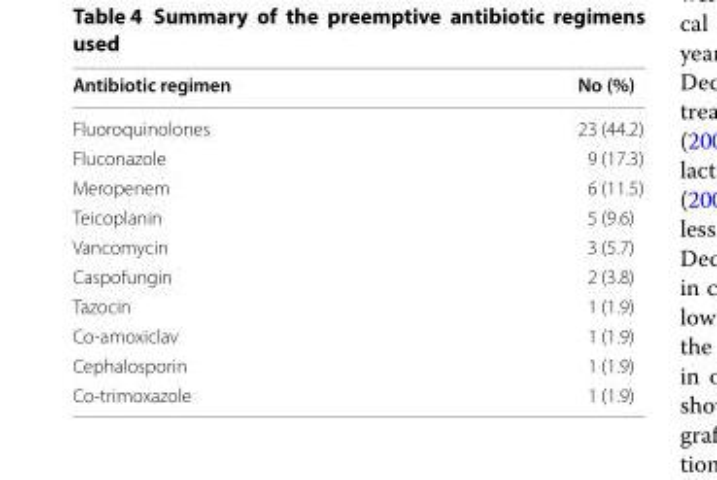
<table><thead><tr><td>Antibiotic regimen</td><td>No (%)</td></tr></thead><tbody><tr><td>Fluoroquinolones</td><td>23 (44.2)</td></tr><tr><td>Fluconazole</td><td>9 (17.3)</td></tr><tr><td>Meropenem</td><td>6 (11.5)</td></tr><tr><td>Teicoplanin</td><td>5 (9.6)</td></tr><tr><td>Vancomycin</td><td>3 (5.7)</td></tr><tr><td>Caspofungin</td><td>2 (3.8)</td></tr><tr><td>Tazocin</td><td>1 (1.9)</td></tr><tr><td>Co-amoxiclav</td><td>1 (1.9)</td></tr><tr><td>Cephalosporin</td><td>1 (1.9)</td></tr><tr><td>Co-trimoxazole</td><td>1 (1.9)</td></tr></tbody></table>